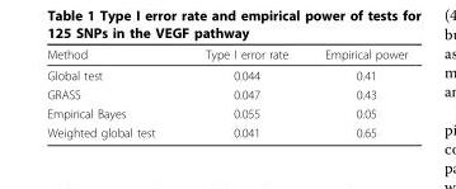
<table><thead><tr><td>Method</td><td>Type I error rate</td><td>Empirical power</td></tr></thead><tbody><tr><td>Global test</td><td>0.044</td><td>0.41</td></tr><tr><td>GRASS</td><td>0.047</td><td>0.43</td></tr><tr><td>Empirical Bayes</td><td>0.055</td><td>0.05</td></tr><tr><td>Weighted global test</td><td>0.041</td><td>0.65</td></tr></tbody></table>